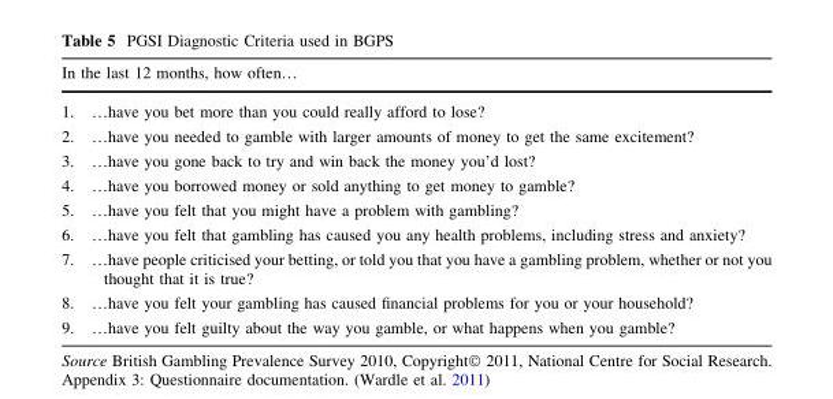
<table><thead><tr><td colspan="2">In the last 12 months, how often…</td></tr><tr><td>1.</td><td>…have you bet more than you could really afford to lose?</td></tr></thead><tbody><tr><td>2.</td><td>…have you needed to gamble with larger amounts of money to get the same excitement?</td></tr><tr><td>3.</td><td>…have you gone back to try and win back the money you’d lost?</td></tr><tr><td>4.</td><td>…have you borrowed money or sold anything to get money to gamble?</td></tr><tr><td>5.</td><td>…have you felt that you might have a problem with gambling?</td></tr><tr><td>6.</td><td>…have you felt that gambling has caused you any health problems, including stress and anxiety?</td></tr><tr><td>7.</td><td>…have people criticised your betting, or told you that you have a gambling problem, whether or not you thought that it is true?</td></tr><tr><td>8.</td><td>…have you felt your gambling has caused financial problems for you or your household?</td></tr><tr><td>9.</td><td>…have you felt guilty about the way you gamble, or what happens when you gamble?</td></tr></tbody></table>